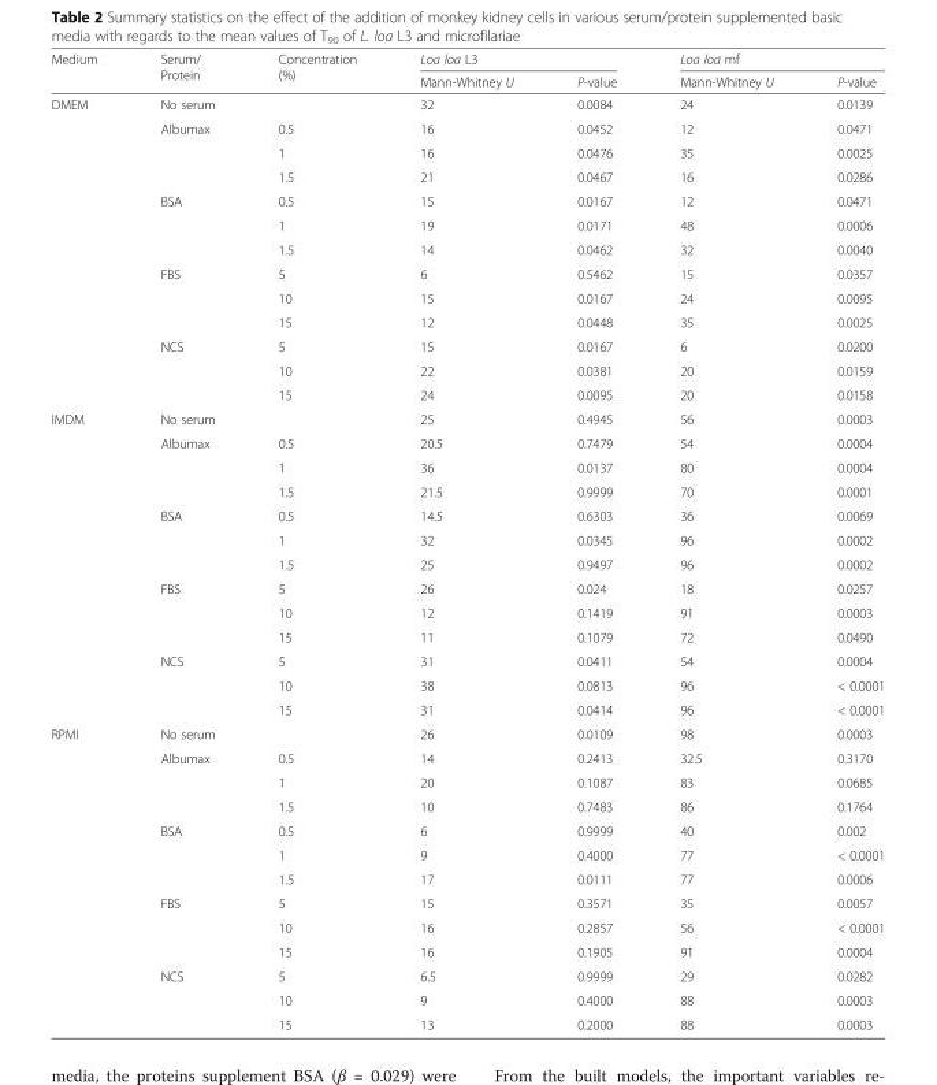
<table><thead><tr><td rowspan="2">Medium</td><td rowspan="2">Serum/ Protein</td><td rowspan="2">Concentration (%)</td><td colspan="2">Loa loa L3</td><td colspan="2">Loa loa mf</td></tr><tr><td>Mann-Whitney U</td><td>P-value</td><td>Mann-Whitney U</td><td>P-value</td></tr></thead><tbody><tr><td rowspan="13">DMEM</td><td>No serum</td><td></td><td>32</td><td>0.0084</td><td>24</td><td>0.0139</td></tr><tr><td rowspan="3">Albumax</td><td>0.5</td><td>16</td><td>0.0452</td><td>12</td><td>0.0471</td></tr><tr><td>1</td><td>16</td><td>0.0476</td><td>35</td><td>0.0025</td></tr><tr><td>1.5</td><td>21</td><td>0.0467</td><td>16</td><td>0.0286</td></tr><tr><td rowspan="3">BSA</td><td>0.5</td><td>15</td><td>0.0167</td><td>12</td><td>0.0471</td></tr><tr><td>1</td><td>19</td><td>0.0171</td><td>48</td><td>0.0006</td></tr><tr><td>1.5</td><td>14</td><td>0.0462</td><td>32</td><td>0.0040</td></tr><tr><td rowspan="3">FBS</td><td>5</td><td>6</td><td>0.5462</td><td>15</td><td>0.0357</td></tr><tr><td>10</td><td>15</td><td>0.0167</td><td>24</td><td>0.0095</td></tr><tr><td>15</td><td>12</td><td>0.0448</td><td>35</td><td>0.0025</td></tr><tr><td rowspan="3">NCS</td><td>5</td><td>15</td><td>0.0167</td><td>6</td><td>0.0200</td></tr><tr><td>10</td><td>22</td><td>0.0381</td><td>20</td><td>0.0159</td></tr><tr><td>15</td><td>24</td><td>0.0095</td><td>20</td><td>0.0158</td></tr><tr><td rowspan="13">IMDM</td><td>No serum</td><td></td><td>25</td><td>0.4945</td><td>56</td><td>0.0003</td></tr><tr><td rowspan="3">Albumax</td><td>0.5</td><td>20.5</td><td>0.7479</td><td>54</td><td>0.0004</td></tr><tr><td>1</td><td>36</td><td>0.0137</td><td>80</td><td>0.0004</td></tr><tr><td>1.5</td><td>21.5</td><td>0.9999</td><td>70</td><td>0.0001</td></tr><tr><td rowspan="3">BSA</td><td>0.5</td><td>14.5</td><td>0.6303</td><td>36</td><td>0.0069</td></tr><tr><td>1</td><td>32</td><td>0.0345</td><td>96</td><td>0.0002</td></tr><tr><td>1.5</td><td>25</td><td>0.9497</td><td>96</td><td>0.0002</td></tr><tr><td rowspan="3">FBS</td><td>5</td><td>26</td><td>0.024</td><td>18</td><td>0.0257</td></tr><tr><td>10</td><td>12</td><td>0.1419</td><td>91</td><td>0.0003</td></tr><tr><td>15</td><td>11</td><td>0.1079</td><td>72</td><td>0.0490</td></tr><tr><td rowspan="3">NCS</td><td>5</td><td>31</td><td>0.0411</td><td>54</td><td>0.0004</td></tr><tr><td>10</td><td>38</td><td>0.0813</td><td>96</td><td>&lt; 0.0001</td></tr><tr><td>15</td><td>31</td><td>0.0414</td><td>96</td><td>&lt; 0.0001</td></tr><tr><td rowspan="13">RPMI</td><td>No serum</td><td></td><td>26</td><td>0.0109</td><td>98</td><td>0.0003</td></tr><tr><td rowspan="3">Albumax</td><td>0.5</td><td>14</td><td>0.2413</td><td>32.5</td><td>0.3170</td></tr><tr><td>1</td><td>20</td><td>0.1087</td><td>83</td><td>0.0685</td></tr><tr><td>1.5</td><td>10</td><td>0.7483</td><td>86</td><td>0.1764</td></tr><tr><td rowspan="3">BSA</td><td>0.5</td><td>6</td><td>0.9999</td><td>40</td><td>0.002</td></tr><tr><td>1</td><td>9</td><td>0.4000</td><td>77</td><td>&lt; 0.0001</td></tr><tr><td>1.5</td><td>17</td><td>0.0111</td><td>77</td><td>0.0006</td></tr><tr><td rowspan="3">FBS</td><td>5</td><td>15</td><td>0.3571</td><td>35</td><td>0.0057</td></tr><tr><td>10</td><td>16</td><td>0.2857</td><td>56</td><td>&lt; 0.0001</td></tr><tr><td>15</td><td>16</td><td>0.1905</td><td>91</td><td>0.0004</td></tr><tr><td rowspan="3">NCS</td><td>5</td><td>6.5</td><td>0.9999</td><td>29</td><td>0.0282</td></tr><tr><td>10</td><td>9</td><td>0.4000</td><td>88</td><td>0.0003</td></tr><tr><td>15</td><td>13</td><td>0.2000</td><td>88</td><td>0.0003</td></tr></tbody></table>